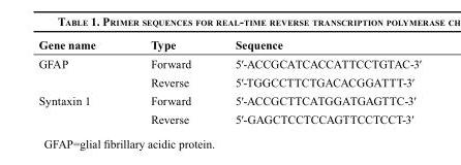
<table><thead><tr><td>Gene name</td><td>Type</td><td>Sequence</td></tr></thead><tbody><tr><td rowspan="2">GFAP</td><td>Forward</td><td>5′-ACCGCATCACCATTCCTGTAC-3′</td></tr><tr><td>Reverse</td><td>5′-TGGCCTTCTGACACGGATTT-3′</td></tr><tr><td rowspan="2">Syntaxin 1</td><td>Forward</td><td>5′-ACCGCTTCATGGATGAGTTC-3′</td></tr><tr><td>Reverse</td><td>5′-GAGCTCCTCCAGTTCCTCCT-3′</td></tr></tbody></table>